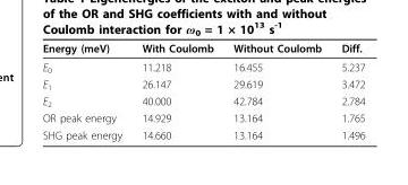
<table><thead><tr><td>Energy (meV)</td><td>With Coulomb</td><td>Without Coulomb</td><td>Diff.</td></tr></thead><tbody><tr><td>E<sub>0</sub></td><td>11.218</td><td>16.455</td><td>5.237</td></tr><tr><td>E<sub>1</sub></td><td>26.147</td><td>29.619</td><td>3.472</td></tr><tr><td>E<sub>2</sub></td><td>40.000</td><td>42.784</td><td>2.784</td></tr><tr><td>OR peak energy</td><td>14.929</td><td>13.164</td><td>1.765</td></tr><tr><td>SHG peak energy</td><td>14.660</td><td>13.164</td><td>1.496</td></tr></tbody></table>